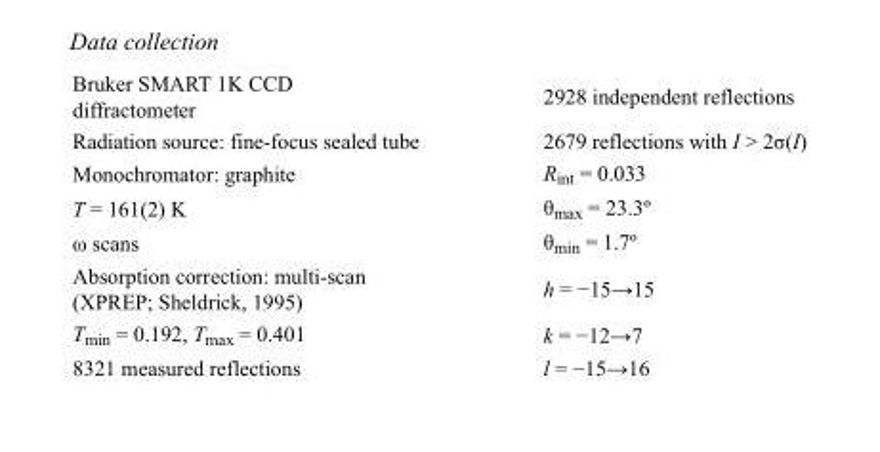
<table><tbody><tr><td>Bruker SMART 1K CCD diffractometer</td><td>2928 independent reflections</td></tr><tr><td>Radiation source: fine-focus sealed tube</td><td>2679 reflections with I &gt; 2σ(I)</td></tr><tr><td>Monochromator: graphite</td><td>R<sub>int</sub> = 0.033</td></tr><tr><td>T = 161(2) K</td><td>θ<sub>max</sub> = 23.3º</td></tr><tr><td>ω scans</td><td>θ<sub>min</sub> = 1.7º</td></tr><tr><td>Absorption correction: multi-scan (XPREP; Sheldrick, 1995)</td><td>h = −15→15</td></tr><tr><td>T<sub>min</sub> = 0.192, T<sub>max</sub> = 0.401</td><td>k = −12→7</td></tr><tr><td>8321 measured reflections</td><td>l = −15→16</td></tr></tbody></table>